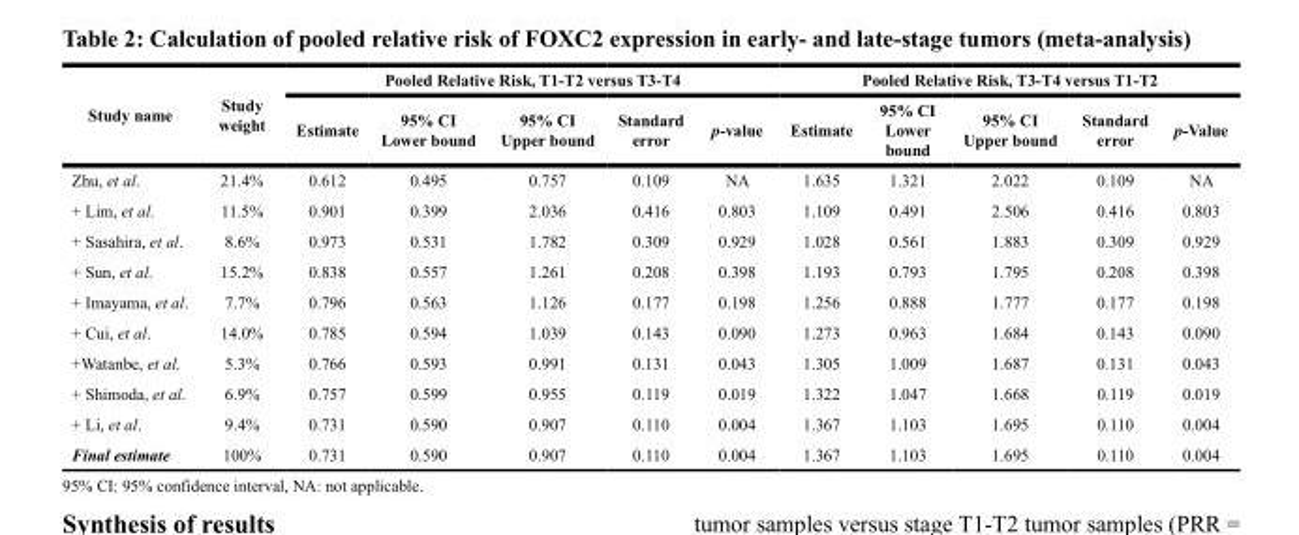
<table><thead><tr><td rowspan="2">Study name</td><td rowspan="2">Study weight</td><td colspan="5">Pooled Relative Risk, T1-T2 versus T3-T4</td><td colspan="5">Pooled Relative Risk, T3-T4 versus T1-T2</td></tr><tr><td>Estimate</td><td>95% CI Lower bound</td><td>95% CI Upper bound</td><td>Standard error</td><td>p-value</td><td>Estimate</td><td>95% CI Lower bound</td><td>95% CI Upper bound</td><td>Standard error</td><td>p-Value</td></tr></thead><tbody><tr><td>Zhu, et al.</td><td>21.4%</td><td>0.612</td><td>0.495</td><td>0.757</td><td>0.109</td><td>NA</td><td>1.635</td><td>1.321</td><td>2.022</td><td>0.109</td><td>NA</td></tr><tr><td>+ Lim, et al.</td><td>11.5%</td><td>0.901</td><td>0.399</td><td>2.036</td><td>0.416</td><td>0.803</td><td>1.109</td><td>0.491</td><td>2.506</td><td>0.416</td><td>0.803</td></tr><tr><td>+ Sasahira, et al.</td><td>8.6%</td><td>0.973</td><td>0.531</td><td>1.782</td><td>0.309</td><td>0.929</td><td>1.028</td><td>0.561</td><td>1.883</td><td>0.309</td><td>0.929</td></tr><tr><td>+ Sun, et al.</td><td>15.2%</td><td>0.838</td><td>0.557</td><td>1.261</td><td>0.208</td><td>0.398</td><td>1.193</td><td>0.793</td><td>1.795</td><td>0.208</td><td>0.398</td></tr><tr><td>+ Imayama, et al.</td><td>7.7%</td><td>0.796</td><td>0.563</td><td>1.126</td><td>0.177</td><td>0.198</td><td>1.256</td><td>0.888</td><td>1.777</td><td>0.177</td><td>0.198</td></tr><tr><td>+ Cui, et al.</td><td>14.0%</td><td>0.785</td><td>0.594</td><td>1.039</td><td>0.143</td><td>0.090</td><td>1.273</td><td>0.963</td><td>1.684</td><td>0.143</td><td>0.090</td></tr><tr><td>+Watanbe, et al.</td><td>5.3%</td><td>0.766</td><td>0.593</td><td>0.991</td><td>0.131</td><td>0.043</td><td>1.305</td><td>1.009</td><td>1.687</td><td>0.131</td><td>0.043</td></tr><tr><td>+ Shimoda, et al.</td><td>6.9%</td><td>0.757</td><td>0.599</td><td>0.955</td><td>0.119</td><td>0.019</td><td>1.322</td><td>1.047</td><td>1.668</td><td>0.119</td><td>0.019</td></tr><tr><td>+ Li, et al.</td><td>9.4%</td><td>0.731</td><td>0.590</td><td>0.907</td><td>0.110</td><td>0.004</td><td>1.367</td><td>1.103</td><td>1.695</td><td>0.110</td><td>0.004</td></tr><tr><td>Final estimate</td><td>100%</td><td>0.731</td><td>0.590</td><td>0.907</td><td>0.110</td><td>0.004</td><td>1.367</td><td>1.103</td><td>1.695</td><td>0.110</td><td>0.004</td></tr></tbody></table>